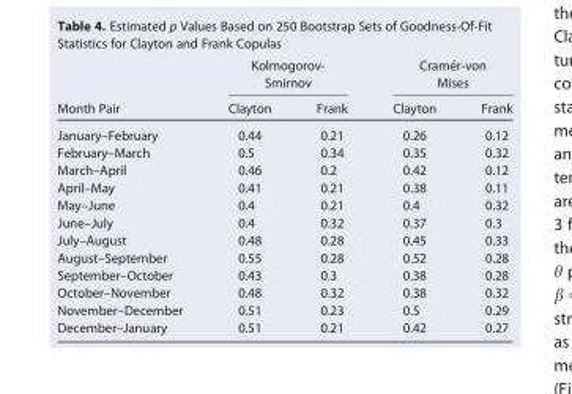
<table><thead><tr><td rowspan="2">Month Pair</td><td colspan="2">Kolmogorov- Smirnov</td><td colspan="2">Cram�er-von Mises</td></tr><tr><td>Clayton</td><td>Frank</td><td>Clayton</td><td>Frank</td></tr></thead><tbody><tr><td>January–February</td><td>0.44</td><td>0.21</td><td>0.26</td><td>0.12</td></tr><tr><td>February–March</td><td>0.5</td><td>0.34</td><td>0.35</td><td>0.32</td></tr><tr><td>March–April</td><td>0.46</td><td>0.2</td><td>0.42</td><td>0.12</td></tr><tr><td>April–May</td><td>0.41</td><td>0.21</td><td>0.38</td><td>0.11</td></tr><tr><td>May–June</td><td>0.4</td><td>0.21</td><td>0.4</td><td>0.32</td></tr><tr><td>June–July</td><td>0.4</td><td>0.32</td><td>0.37</td><td>0.3</td></tr><tr><td>July–August</td><td>0.48</td><td>0.28</td><td>0.45</td><td>0.33</td></tr><tr><td>August–September</td><td>0.55</td><td>0.28</td><td>0.52</td><td>0.28</td></tr><tr><td>September–October</td><td>0.43</td><td>0.3</td><td>0.38</td><td>0.28</td></tr><tr><td>October–November</td><td>0.48</td><td>0.32</td><td>0.38</td><td>0.32</td></tr><tr><td>November–December</td><td>0.51</td><td>0.23</td><td>0.5</td><td>0.29</td></tr><tr><td>December–January</td><td>0.51</td><td>0.21</td><td>0.42</td><td>0.27</td></tr></tbody></table>